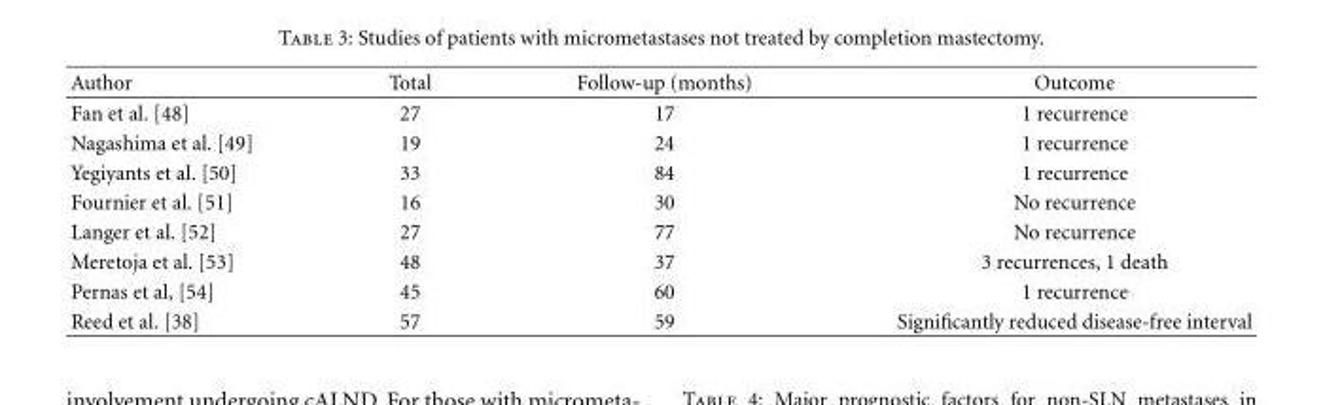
<table><thead><tr><td>Author</td><td>Total</td><td>Follow-up (months)</td><td>Outcome</td></tr></thead><tbody><tr><td>Fan et al. [48]</td><td>27</td><td>17</td><td>1 recurrence</td></tr><tr><td>Nagashima et al. [49]</td><td>19</td><td>24</td><td>1 recurrence</td></tr><tr><td>Yegiyants et al. [50]</td><td>33</td><td>84</td><td>1 recurrence</td></tr><tr><td>Fournier et al. [51]</td><td>16</td><td>30</td><td>No recurrence</td></tr><tr><td>Langer et al. [52]</td><td>27</td><td>77</td><td>No recurrence</td></tr><tr><td>Meretoja et al. [53]</td><td>48</td><td>37</td><td>3 recurrences, 1 death</td></tr><tr><td>Pernas et al, [54]</td><td>45</td><td>60</td><td>1 recurrence</td></tr><tr><td>Reed et al. [38]</td><td>57</td><td>59</td><td>Significantly reduced disease-free interval</td></tr></tbody></table>